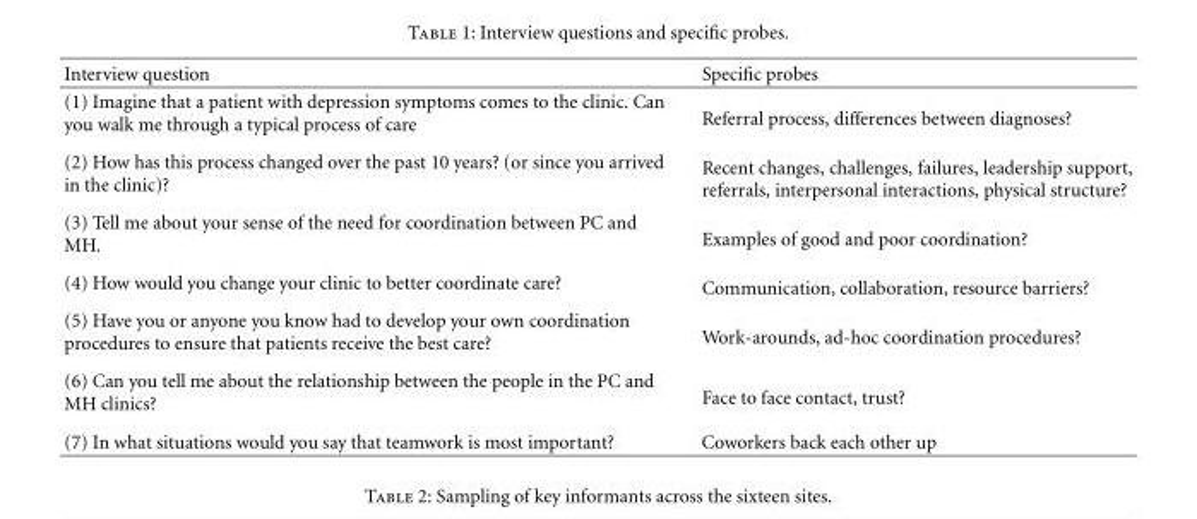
<table><thead><tr><td>Interview question</td><td>Specific probes</td></tr></thead><tbody><tr><td>(1) Imagine that a patient with depression symptoms comes to the clinic. Can you walk me through a typical process of care</td><td>Referral process, differences between diagnoses?</td></tr><tr><td>(2) How has this process changed over the past 10 years? (or since you arrived in the clinic)?</td><td>Recent changes, challenges, failures, leadership support, referrals, interpersonal interactions, physical structure?</td></tr><tr><td>(3) Tell me about your sense of the need for coordination between PC and MH.</td><td>Examples of good and poor coordination?</td></tr><tr><td>(4) How would you change your clinic to better coordinate care?</td><td>Communication, collaboration, resource barriers?</td></tr><tr><td>(5) Have you or anyone you know had to develop your own coordination procedures to ensure that patients receive the best care?</td><td>Work-arounds, ad-hoc coordination procedures?</td></tr><tr><td>(6) Can you tell me about the relationship between the people in the PC and MH clinics?</td><td>Face to face contact, trust?</td></tr><tr><td>(7) In what situations would you say that teamwork is most important?</td><td>Coworkers back each other up</td></tr></tbody></table>